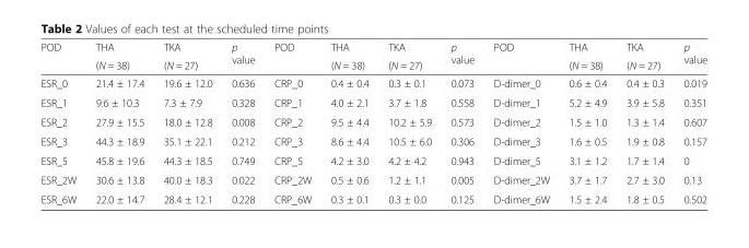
<table><thead><tr><td rowspan="2">POD</td><td rowspan="2">THA (N = 38)</td><td rowspan="2">TKA (N = 27)</td><td rowspan="2">p value</td><td rowspan="2">POD</td><td rowspan="2">THA (N = 38)</td><td rowspan="2">TKA (N = 27)</td><td rowspan="2">p value</td><td rowspan="2">POD</td><td rowspan="2">THA (N = 38)</td><td rowspan="2">TKA (N = 27)</td><td rowspan="2">p value</td></tr><tr></tr></thead><tbody><tr><td>ESR_0</td><td>21.4 ± 17.4</td><td>19.6 ± 12.0</td><td>0.636</td><td>CRP_0</td><td>0.4 ± 0.4</td><td>0.3 ± 0.1</td><td>0.073</td><td>D-dimer_0</td><td>0.6 ± 0.4</td><td>0.4 ± 0.3</td><td>0.019</td></tr><tr><td>ESR_1</td><td>9.6 ± 10.3</td><td>7.3 ± 7.9</td><td>0.328</td><td>CRP_1</td><td>4.0 ± 2.1</td><td>3.7 ± 1.8</td><td>0.558</td><td>D-dimer_1</td><td>5.2 ± 4.9</td><td>3.9 ± 5.8</td><td>0.351</td></tr><tr><td>ESR_2</td><td>27.9 ± 15.5</td><td>18.0 ± 12.8</td><td>0.008</td><td>CRP_2</td><td>9.5 ± 4.4</td><td>10.2 ± 5.9</td><td>0.573</td><td>D-dimer_2</td><td>1.5 ± 1.0</td><td>1.3 ± 1.4</td><td>0.607</td></tr><tr><td>ESR_3</td><td>44.3 ± 18.9</td><td>35.1 ± 22.1</td><td>0.212</td><td>CRP_3</td><td>8.6 ± 4.4</td><td>10.5 ± 6.0</td><td>0.306</td><td>D-dimer_3</td><td>1.6 ± 0.5</td><td>1.9 ± 0.8</td><td>0.157</td></tr><tr><td>ESR_5</td><td>45.8 ± 19.6</td><td>44.3 ± 18.5</td><td>0.749</td><td>CRP_5</td><td>4.2 ± 3.0</td><td>4.2 ± 4.2</td><td>0.943</td><td>D-dimer_5</td><td>3.1 ± 1.2</td><td>1.7 ± 1.4</td><td>0</td></tr><tr><td>ESR_2W</td><td>30.6 ± 13.8</td><td>40.0 ± 18.3</td><td>0.022</td><td>CRP_2W</td><td>0.5 ± 0.6</td><td>1.2 ± 1.1</td><td>0.005</td><td>D-dimer_2W</td><td>3.7 ± 1.7</td><td>2.7 ± 3.0</td><td>0.13</td></tr><tr><td>ESR_6W</td><td>22.0 ± 14.7</td><td>28.4 ± 12.1</td><td>0.228</td><td>CRP_6W</td><td>0.3 ± 0.1</td><td>0.3 ± 0.0</td><td>0.125</td><td>D-dimer_6W</td><td>1.5 ± 2.4</td><td>1.8 ± 0.5</td><td>0.502</td></tr></tbody></table>